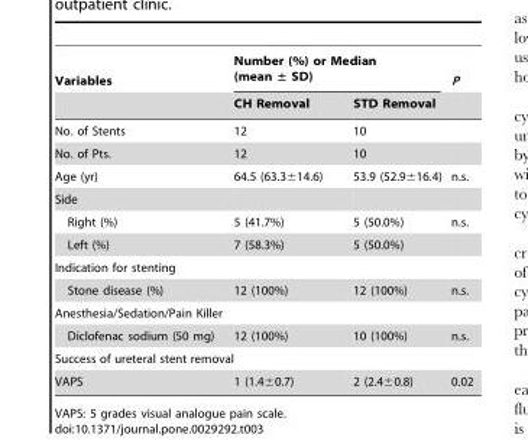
<table><thead><tr><td rowspan="2">Variables</td><td colspan="2">Number (%) or Median (mean ± SD)</td><td rowspan="2">P</td></tr><tr><td>CH Removal</td><td>STD Removal</td></tr></thead><tbody><tr><td>No. of Stents</td><td>12</td><td>10</td><td></td></tr><tr><td>No. of Pts.</td><td>12</td><td>10</td><td></td></tr><tr><td>Age (yr)</td><td>64.5 (63.3±14.6)</td><td>53.9 (52.9±16.4)</td><td>n.s.</td></tr><tr><td colspan="4">Side</td></tr><tr><td>Right (%)</td><td>5 (41.7%)</td><td>5 (50.0%)</td><td>n.s.</td></tr><tr><td>Left (%)</td><td>7 (58.3%)</td><td>5 (50.0%)</td><td></td></tr><tr><td colspan="4">Indication for stenting</td></tr><tr><td>Stone disease (%)</td><td>12 (100%)</td><td>12 (100%)</td><td>n.s.</td></tr><tr><td colspan="4">Anesthesia/Sedation/Pain Killer</td></tr><tr><td>Diclofenac sodium (50 mg)</td><td>12 (100%)</td><td>10 (100%)</td><td>n.s.</td></tr><tr><td colspan="4">Success of ureteral stent removal</td></tr><tr><td>VAPS</td><td>1 (1.4±0.7)</td><td>2 (2.4±0.8)</td><td>0.02</td></tr></tbody></table>